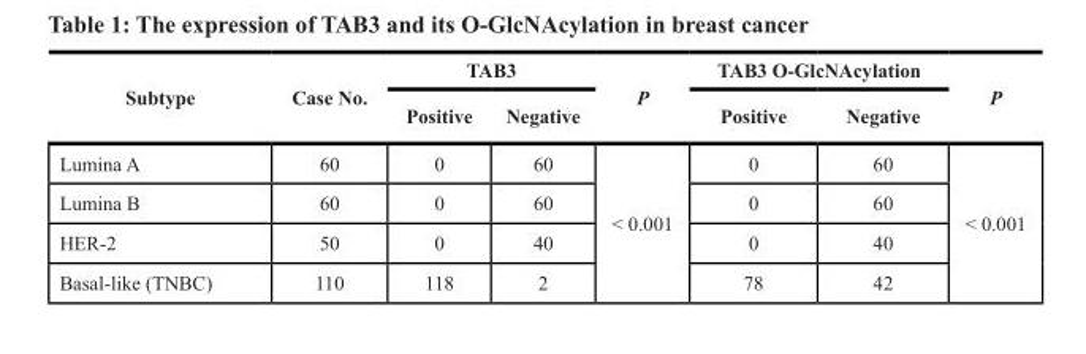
<table><thead><tr><td rowspan="2">Subtype</td><td rowspan="2">Case No.</td><td colspan="2">TAB3</td><td rowspan="2">P</td><td colspan="2">TAB3 O-GlcNAcylation</td><td rowspan="2">P</td></tr><tr><td>Positive</td><td>Negative</td><td>Positive</td><td>Negative</td></tr></thead><tbody><tr><td>Lumina A</td><td>60</td><td>0</td><td>60</td><td rowspan="4">&lt; 0.001</td><td>0</td><td>60</td><td rowspan="4">&lt; 0.001</td></tr><tr><td>Lumina B</td><td>60</td><td>0</td><td>60</td><td>0</td><td>60</td></tr><tr><td>HER-2</td><td>50</td><td>0</td><td>40</td><td>0</td><td>40</td></tr><tr><td>Basal-like (TNBC)</td><td>110</td><td>118</td><td>2</td><td>78</td><td>42</td></tr></tbody></table>